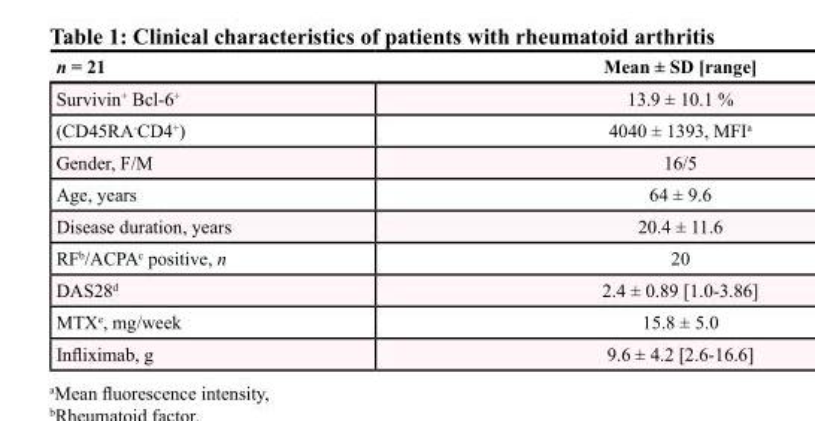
<table><thead><tr><td>n = 21</td><td>Mean ± SD [range]</td></tr></thead><tbody><tr><td>Survivin<sup>+</sup> Bcl-6<sup>+</sup></td><td>13.9 ± 10.1 %</td></tr><tr><td>(CD45RA<sup>-</sup>CD4<sup>+</sup>)</td><td>4040 ± 1393, MFI<sup>a</sup></td></tr><tr><td>Gender, F/M</td><td>16/5</td></tr><tr><td>Age, years</td><td>64 ± 9.6</td></tr><tr><td>Disease duration, years</td><td>20.4 ± 11.6</td></tr><tr><td>RF<sup>b</sup>/ACPA<sup>c</sup> positive, n</td><td>20</td></tr><tr><td>DAS28<sup>d</sup></td><td>2.4 ± 0.89 [1.0-3.86]</td></tr><tr><td>MTX<sup>e</sup>, mg/week</td><td>15.8 ± 5.0</td></tr><tr><td>Infliximab, g</td><td>9.6 ± 4.2 [2.6-16.6]</td></tr></tbody></table>